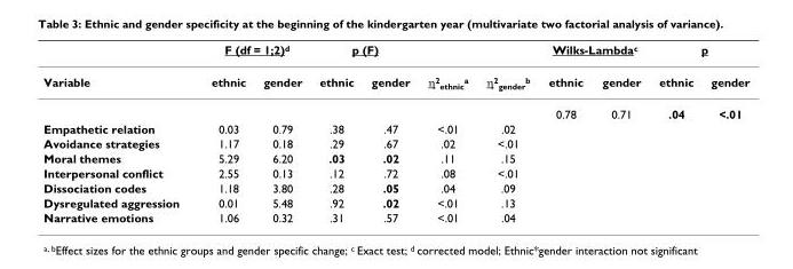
<table><thead><tr><td rowspan="2">Variable</td><td colspan="2">F (df = 1;2)<sup>d</sup></td><td colspan="2">p (F)</td><td rowspan="2">η<sup>2</sup><sub>ethnic</sub><sup>a</sup></td><td rowspan="2">η<sup>2</sup><sub>gender</sub><sup>b</sup></td><td colspan="2">Wilks-Lambda<sup>c</sup></td><td colspan="2">p</td></tr><tr><td>ethnic</td><td>gender</td><td>ethnic</td><td>gender</td><td>ethnic</td><td>gender</td><td>ethnic</td><td>gender</td></tr></thead><tbody><tr><td></td><td></td><td></td><td></td><td></td><td></td><td></td><td>0.78</td><td>0.71</td><td>.04</td><td>&lt;.01</td></tr><tr><td>Empathetic relation</td><td>0.03</td><td>0.79</td><td>.38</td><td>.47</td><td>&lt;.01</td><td>.02</td><td></td><td></td><td></td><td></td></tr><tr><td>Avoidance strategies</td><td>1.17</td><td>0.18</td><td>.29</td><td>.67</td><td>.02</td><td>&lt;.01</td><td></td><td></td><td></td><td></td></tr><tr><td>Moral themes</td><td>5.29</td><td>6.20</td><td>.03</td><td>.02</td><td>.11</td><td>.15</td><td></td><td></td><td></td><td></td></tr><tr><td>Interpersonal conflict</td><td>2.55</td><td>0.13</td><td>.12</td><td>.72</td><td>.08</td><td>&lt;.01</td><td></td><td></td><td></td><td></td></tr><tr><td>Dissociation codes</td><td>1.18</td><td>3.80</td><td>.28</td><td>.05</td><td>.04</td><td>.09</td><td></td><td></td><td></td><td></td></tr><tr><td>Dysregulated aggression</td><td>0.01</td><td>5.48</td><td>.92</td><td>.02</td><td>&lt;.01</td><td>.13</td><td></td><td></td><td></td><td></td></tr><tr><td>Narrative emotions</td><td>1.06</td><td>0.32</td><td>.31</td><td>.57</td><td>&lt;.01</td><td>.04</td><td></td><td></td><td></td><td></td></tr></tbody></table>